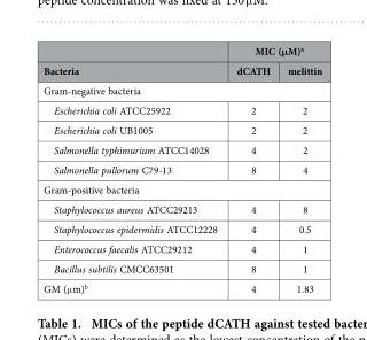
<table><thead><tr><td rowspan="2">Bacteria</td><td colspan="2">MIC (μM)<sup>a</sup></td></tr><tr><td>dCATH</td><td>melittin</td></tr></thead><tbody><tr><td colspan="3">Gram-negative bacteria</td></tr><tr><td>Escherichia coli ATCC25922</td><td>2</td><td>2</td></tr><tr><td>Escherichia coli UB1005</td><td>2</td><td>2</td></tr><tr><td>Salmonella typhimurium ATCC14028</td><td>4</td><td>2</td></tr><tr><td>Salmonella pullorum C79-13</td><td>8</td><td>4</td></tr><tr><td colspan="3">Gram-positive bacteria</td></tr><tr><td>Staphylococcus aureus ATCC29213</td><td>4</td><td>8</td></tr><tr><td>Staphylococcus epidermidis ATCC12228</td><td>4</td><td>0.5</td></tr><tr><td>Enterococcus faecalis ATCC29212</td><td>4</td><td>1</td></tr><tr><td>Bacillus subtilis CMCC63501</td><td>8</td><td>1</td></tr><tr><td>GM (μ m)<sup>b</sup></td><td>4</td><td>1.83</td></tr></tbody></table>